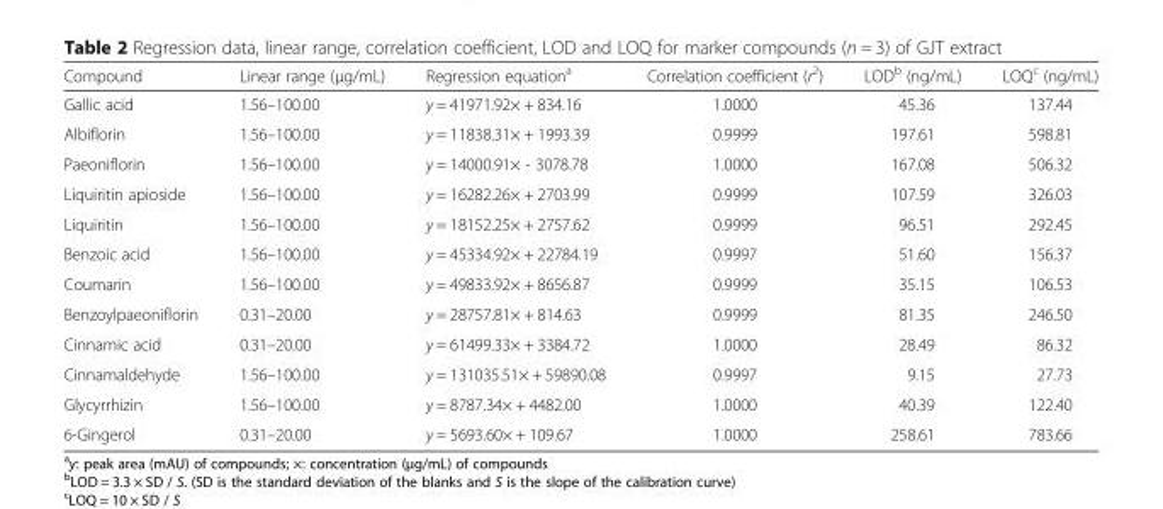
<table><thead><tr><td>Compound</td><td>Linear range (μg/mL)</td><td>Regression equation<sup>a</sup></td><td>Correlation coefficient (r<sup>2</sup>)</td><td>LOD<sup>b</sup> (ng/mL)</td><td>LOQ<sup>c</sup> (ng/mL)</td></tr></thead><tbody><tr><td>Gallic acid</td><td>1.56–100.00</td><td>y = 41971.92× + 834.16</td><td>1.0000</td><td>45.36</td><td>137.44</td></tr><tr><td>Albiflorin</td><td>1.56–100.00</td><td>y = 11838.31× + 1993.39</td><td>0.9999</td><td>197.61</td><td>598.81</td></tr><tr><td>Paeoniflorin</td><td>1.56–100.00</td><td>y = 14000.91× - 3078.78</td><td>1.0000</td><td>167.08</td><td>506.32</td></tr><tr><td>Liquiritin apioside</td><td>1.56–100.00</td><td>y = 16282.26× + 2703.99</td><td>0.9999</td><td>107.59</td><td>326.03</td></tr><tr><td>Liquiritin</td><td>1.56–100.00</td><td>y = 18152.25× + 2757.62</td><td>0.9999</td><td>96.51</td><td>292.45</td></tr><tr><td>Benzoic acid</td><td>1.56–100.00</td><td>y = 45334.92× + 22784.19</td><td>0.9997</td><td>51.60</td><td>156.37</td></tr><tr><td>Coumarin</td><td>1.56–100.00</td><td>y = 49833.92× + 8656.87</td><td>0.9999</td><td>35.15</td><td>106.53</td></tr><tr><td>Benzoylpaeoniflorin</td><td>0.31–20.00</td><td>y = 28757.81× + 814.63</td><td>0.9999</td><td>81.35</td><td>246.50</td></tr><tr><td>Cinnamic acid</td><td>0.31–20.00</td><td>y = 61499.33× + 3384.72</td><td>1.0000</td><td>28.49</td><td>86.32</td></tr><tr><td>Cinnamaldehyde</td><td>1.56–100.00</td><td>y = 131035.51× + 59890.08</td><td>0.9997</td><td>9.15</td><td>27.73</td></tr><tr><td>Glycyrrhizin</td><td>1.56–100.00</td><td>y = 8787.34× + 4482.00</td><td>1.0000</td><td>40.39</td><td>122.40</td></tr><tr><td>6-Gingerol</td><td>0.31–20.00</td><td>y = 5693.60× + 109.67</td><td>1.0000</td><td>258.61</td><td>783.66</td></tr></tbody></table>